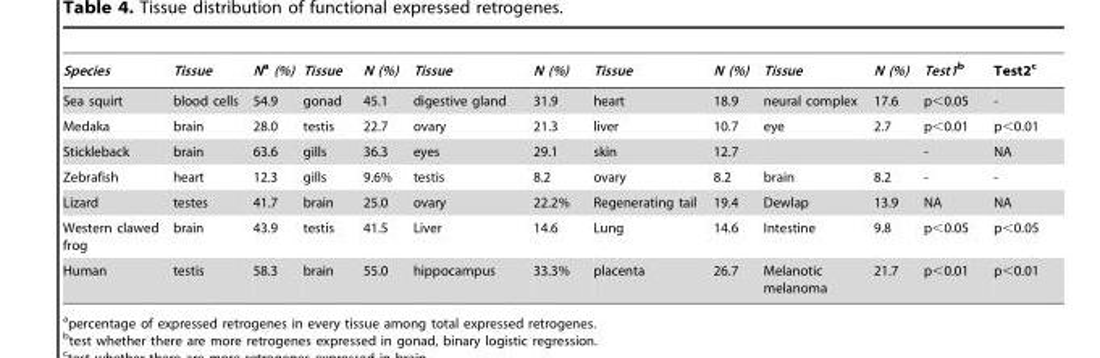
<table><thead><tr><td>Species</td><td>Tissue</td><td>Na (%)</td><td>Tissue</td><td>N (%)</td><td>Tissue</td><td>N (%)</td><td>Tissue</td><td>N (%)</td><td>Tissue</td><td>N (%)</td><td>Test1b</td><td>Test2<sup>c</sup></td></tr></thead><tbody><tr><td>Sea squirt</td><td>blood cells</td><td>54.9</td><td>gonad</td><td>45.1</td><td>digestive gland</td><td>31.9</td><td>heart</td><td>18.9</td><td>neural complex</td><td>17.6</td><td>p&lt;0.05</td><td>-</td></tr><tr><td>Medaka</td><td>brain</td><td>28.0</td><td>testis</td><td>22.7</td><td>ovary</td><td>21.3</td><td>liver</td><td>10.7</td><td>eye</td><td>2.7</td><td>p&lt;0.01</td><td>p&lt;0.01</td></tr><tr><td>Stickleback</td><td>brain</td><td>63.6</td><td>gills</td><td>36.3</td><td>eyes</td><td>29.1</td><td>skin</td><td>12.7</td><td></td><td></td><td>-</td><td>NA</td></tr><tr><td>Zebrafish</td><td>heart</td><td>12.3</td><td>gills</td><td>9.6%</td><td>testis</td><td>8.2</td><td>ovary</td><td>8.2</td><td>brain</td><td>8.2</td><td>-</td><td>-</td></tr><tr><td>Lizard</td><td>testes</td><td>41.7</td><td>brain</td><td>25.0</td><td>ovary</td><td>22.2%</td><td>Regenerating tail</td><td>19.4</td><td>Dewlap</td><td>13.9</td><td>NA</td><td>NA</td></tr><tr><td>Western clawed frog</td><td>brain</td><td>43.9</td><td>testis</td><td>41.5</td><td>Liver</td><td>14.6</td><td>Lung</td><td>14.6</td><td>Intestine</td><td>9.8</td><td>p&lt;0.05</td><td>p&lt;0.05</td></tr><tr><td>Human</td><td>testis</td><td>58.3</td><td>brain</td><td>55.0</td><td>hippocampus</td><td>33.3%</td><td>placenta</td><td>26.7</td><td>Melanotic melanoma</td><td>21.7</td><td>p&lt;0.01</td><td>p&lt;0.01</td></tr></tbody></table>